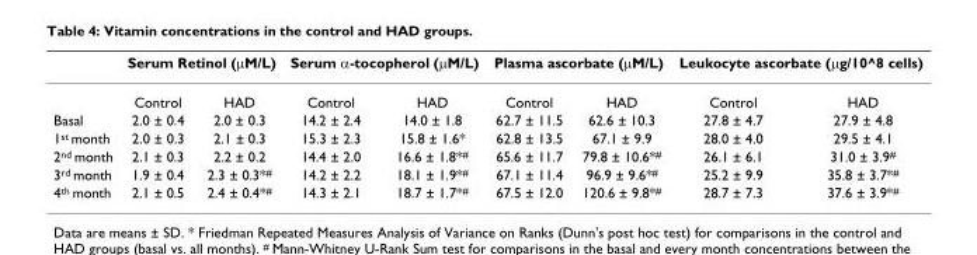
<table><thead><tr><td rowspan="2"></td><td colspan="2">Serum Retinol (μM/L)</td><td colspan="2">Serum α-tocopherol (μM/L)</td><td colspan="2">Plasma ascorbate (μM/L)</td><td colspan="2">Leukocyte ascorbate (μg/10^8 cells)</td></tr><tr><td>Control</td><td>HAD</td><td>Control</td><td>HAD</td><td>Control</td><td>HAD</td><td>Control</td><td>HAD</td></tr></thead><tbody><tr><td>Basal</td><td>2.0 ± 0.4</td><td>2.0 ± 0.3</td><td>14.2 ± 2.4</td><td>14.0 ± 1.8</td><td>62.7 ± 11.5</td><td>62.6 ± 10.3</td><td>27.8 ± 4.7</td><td>27.9 ± 4.8</td></tr><tr><td>1<sup>st</sup> month</td><td>2.0 ± 0.3</td><td>2.1 ± 0.3</td><td>15.3 ± 2.3</td><td>15.8 ± 1.6*</td><td>62.8 ± 13.5</td><td>67.1 ± 9.9</td><td>28.0 ± 4.0</td><td>29.5 ± 4.1</td></tr><tr><td>2<sup>nd</sup> month</td><td>2.1 ± 0.3</td><td>2.2 ± 0.2</td><td>14.4 ± 2.0</td><td>16.6 ± 1.8*<sup>#</sup></td><td>65.6 ± 11.7</td><td>79.8 ± 10.6*<sup>#</sup></td><td>26.1 ± 6.1</td><td>31.0 ± 3.9<sup>#</sup></td></tr><tr><td>3<sup>rd</sup> month</td><td>1.9 ± 0.4</td><td>2.3 ± 0.3*<sup>#</sup></td><td>14.2 ± 2.2</td><td>18.1 ± 1.9*<sup>#</sup></td><td>67.1 ± 11.4</td><td>96.9 ± 9.6*<sup>#</sup></td><td>25.2 ± 9.9</td><td>35.8 ± 3.7*<sup>#</sup></td></tr><tr><td>4<sup>th</sup> month</td><td>2.1 ± 0.5</td><td>2.4 ± 0.4*<sup>#</sup></td><td>14.3 ± 2.1</td><td>18.7 ± 1.7*<sup>#</sup></td><td>67.5 ± 12.0</td><td>120.6 ± 9.8*<sup>#</sup></td><td>28.7 ± 7.3</td><td>37.6 ± 3.9*<sup>#</sup></td></tr></tbody></table>